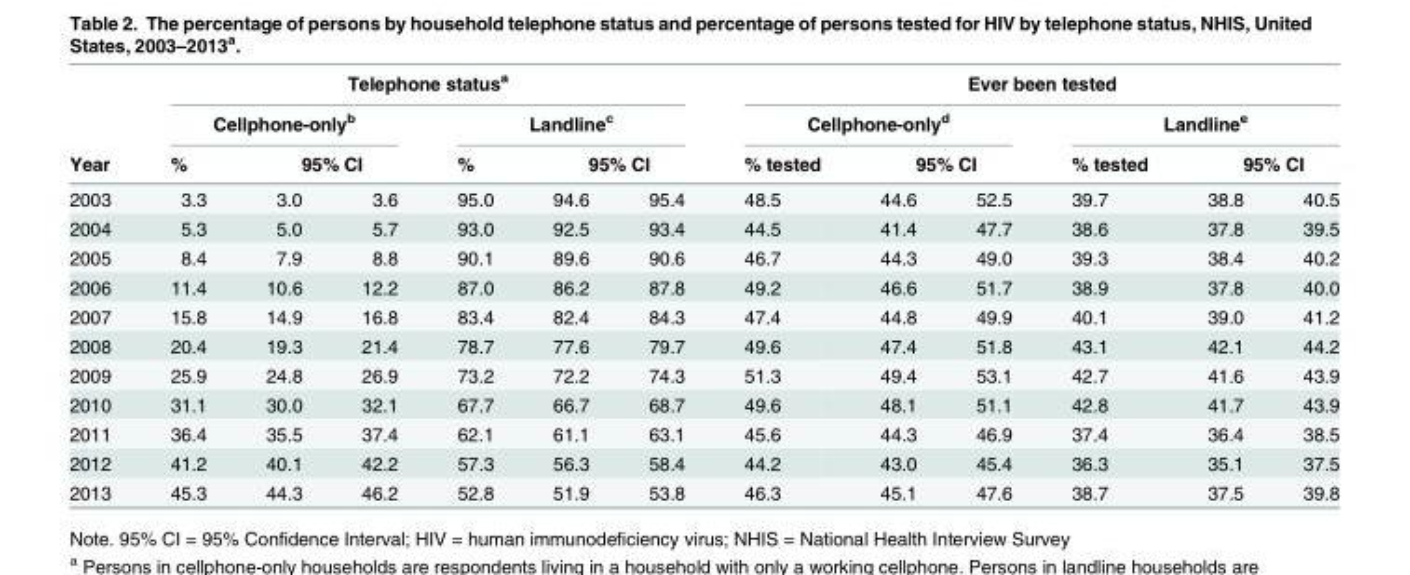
<table><thead><tr><td rowspan="4">Year 2003</td><td colspan="6">Telephone status<sup>a</sup></td><td colspan="6">Ever been tested</td></tr><tr><td colspan="3">Cellphone-only<sup>b</sup></td><td colspan="3">Landline<sup>c</sup></td><td colspan="3">Cellphone-only<sup>d</sup></td><td colspan="3">Landline<sup>e</sup></td></tr><tr><td rowspan="2">% 3.3</td><td colspan="2">95% CI</td><td rowspan="2">% 95.0</td><td colspan="2">95% CI</td><td rowspan="2">% tested 48.5</td><td colspan="2">95% CI</td><td rowspan="2">% tested 39.7</td><td colspan="2">95% CI</td></tr><tr><td>3.0</td><td>3.6</td><td>94.6</td><td>95.4</td><td>44.6</td><td>52.5</td><td>38.8</td><td>40.5</td></tr></thead><tbody><tr><td>2004</td><td>5.3</td><td>5.0</td><td>5.7</td><td>93.0</td><td>92.5</td><td>93.4</td><td>44.5</td><td>41.4</td><td>47.7</td><td>38.6</td><td>37.8</td><td>39.5</td></tr><tr><td>2005</td><td>8.4</td><td>7.9</td><td>8.8</td><td>90.1</td><td>89.6</td><td>90.6</td><td>46.7</td><td>44.3</td><td>49.0</td><td>39.3</td><td>38.4</td><td>40.2</td></tr><tr><td>2006</td><td>11.4</td><td>10.6</td><td>12.2</td><td>87.0</td><td>86.2</td><td>87.8</td><td>49.2</td><td>46.6</td><td>51.7</td><td>38.9</td><td>37.8</td><td>40.0</td></tr><tr><td>2007</td><td>15.8</td><td>14.9</td><td>16.8</td><td>83.4</td><td>82.4</td><td>84.3</td><td>47.4</td><td>44.8</td><td>49.9</td><td>40.1</td><td>39.0</td><td>41.2</td></tr><tr><td>2008</td><td>20.4</td><td>19.3</td><td>21.4</td><td>78.7</td><td>77.6</td><td>79.7</td><td>49.6</td><td>47.4</td><td>51.8</td><td>43.1</td><td>42.1</td><td>44.2</td></tr><tr><td>2009</td><td>25.9</td><td>24.8</td><td>26.9</td><td>73.2</td><td>72.2</td><td>74.3</td><td>51.3</td><td>49.4</td><td>53.1</td><td>42.7</td><td>41.6</td><td>43.9</td></tr><tr><td>2010</td><td>31.1</td><td>30.0</td><td>32.1</td><td>67.7</td><td>66.7</td><td>68.7</td><td>49.6</td><td>48.1</td><td>51.1</td><td>42.8</td><td>41.7</td><td>43.9</td></tr><tr><td>2011</td><td>36.4</td><td>35.5</td><td>37.4</td><td>62.1</td><td>61.1</td><td>63.1</td><td>45.6</td><td>44.3</td><td>46.9</td><td>37.4</td><td>36.4</td><td>38.5</td></tr><tr><td>2012</td><td>41.2</td><td>40.1</td><td>42.2</td><td>57.3</td><td>56.3</td><td>58.4</td><td>44.2</td><td>43.0</td><td>45.4</td><td>36.3</td><td>35.1</td><td>37.5</td></tr><tr><td>2013</td><td>45.3</td><td>44.3</td><td>46.2</td><td>52.8</td><td>51.9</td><td>53.8</td><td>46.3</td><td>45.1</td><td>47.6</td><td>38.7</td><td>37.5</td><td>39.8</td></tr></tbody></table>